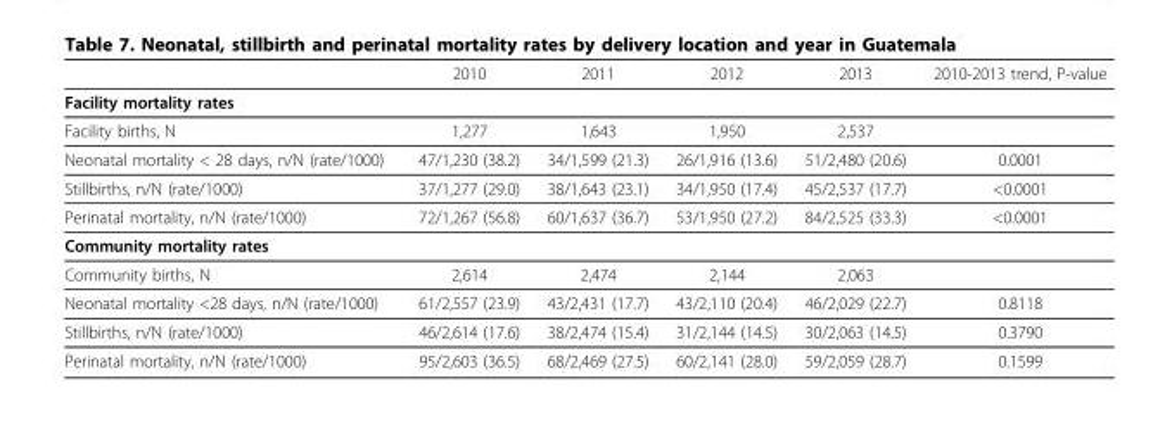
<table><thead><tr><td></td><td>2010</td><td>2011</td><td>2012</td><td>2013</td><td>2010-2013 trend, P-value</td></tr></thead><tbody><tr><td colspan="6">Facility mortality rates</td></tr><tr><td>Facility births, N</td><td>1,277</td><td>1,643</td><td>1,950</td><td>2,537</td><td></td></tr><tr><td>Neonatal mortality &lt; 28 days, n/N (rate/1000)</td><td>47/1,230 (38.2)</td><td>34/1,599 (21.3)</td><td>26/1,916 (13.6)</td><td>51/2,480 (20.6)</td><td>0.0001</td></tr><tr><td>Stillbirths, n/N (rate/1000)</td><td>37/1,277 (29.0)</td><td>38/1,643 (23.1)</td><td>34/1,950 (17.4)</td><td>45/2,537 (17.7)</td><td>&lt;0.0001</td></tr><tr><td>Perinatal mortality, n/N (rate/1000)</td><td>72/1,267 (56.8)</td><td>60/1,637 (36.7)</td><td>53/1,950 (27.2)</td><td>84/2,525 (33.3)</td><td>&lt;0.0001</td></tr><tr><td colspan="6">Community mortality rates</td></tr><tr><td>Community births, N</td><td>2,614</td><td>2,474</td><td>2,144</td><td>2,063</td><td></td></tr><tr><td>Neonatal mortality &lt;28 days, n/N (rate/1000)</td><td>61/2,557 (23.9)</td><td>43/2,431 (17.7)</td><td>43/2,110 (20.4)</td><td>46/2,029 (22.7)</td><td>0.8118</td></tr><tr><td>Stillbirths, n/N (rate/1000)</td><td>46/2,614 (17.6)</td><td>38/2,474 (15.4)</td><td>31/2,144 (14.5)</td><td>30/2,063 (14.5)</td><td>0.3790</td></tr><tr><td>Perinatal mortality, n/N (rate/1000)</td><td>95/2,603 (36.5)</td><td>68/2,469 (27.5)</td><td>60/2,141 (28.0)</td><td>59/2,059 (28.7)</td><td>0.1599</td></tr></tbody></table>